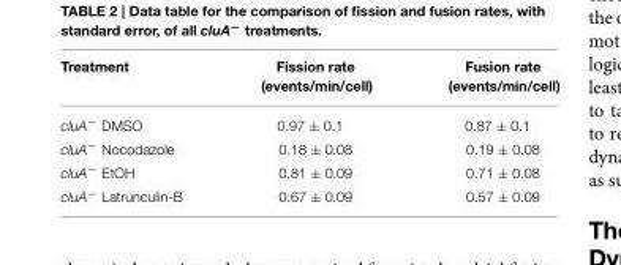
<table><thead><tr><td>Treatment</td><td>Fission rate (events/min/cell)</td><td>Fusion rate (events/min/cell)</td></tr></thead><tbody><tr><td>cluA<sup>−</sup> DMSO</td><td>0.97 ± 0.1</td><td>0.87 ± 0.1</td></tr><tr><td>cluA<sup>−</sup> Nocodazole</td><td>0.18 ± 0.08</td><td>0.19 ± 0.08</td></tr><tr><td>cluA<sup>−</sup> EtOH</td><td>0.81 ± 0.09</td><td>0.71 ± 0.08</td></tr><tr><td>cluA<sup>−</sup> Latrunculin-B</td><td>0.67 ± 0.09</td><td>0.57 ± 0.09</td></tr></tbody></table>